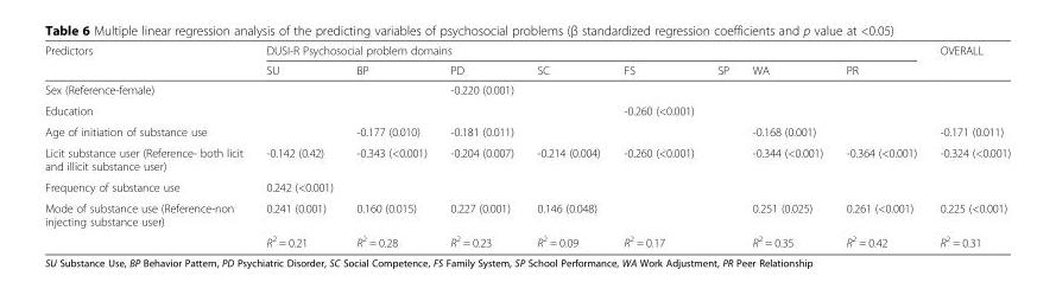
<table><thead><tr><td rowspan="2">Predictors</td><td colspan="8">DUSI-R Psychosocial problem domains</td><td rowspan="2">OVERALL</td></tr><tr><td>SU</td><td>BP</td><td>PD</td><td>SC</td><td>FS</td><td>SP</td><td>WA</td><td>PR</td></tr></thead><tbody><tr><td>Sex (Reference-female)</td><td></td><td></td><td>-0.220 (0.001)</td><td></td><td></td><td></td><td></td><td></td><td></td></tr><tr><td>Education</td><td></td><td></td><td></td><td></td><td>-0.260 (&lt;0.001)</td><td></td><td></td><td></td><td></td></tr><tr><td>Age of initiation of substance use</td><td></td><td>-0.177 (0.010)</td><td>-0.181 (0.011)</td><td></td><td></td><td></td><td>-0.168 (0.001)</td><td></td><td>-0.171 (0.011)</td></tr><tr><td>Licit substance user (Reference- both licit and illicit substance user)</td><td>-0.142 (0.42)</td><td>-0.343 (&lt;0.001)</td><td>-0.204 (0.007)</td><td>-0.214 (0.004)</td><td>-0.260 (&lt;0.001)</td><td></td><td>-0.344 (&lt;0.001)</td><td>-0.364 (&lt;0.001)</td><td>-0.324 (&lt;0.001)</td></tr><tr><td>Frequency of substance use</td><td>0.242 (&lt;0.001)</td><td></td><td></td><td></td><td></td><td></td><td></td><td></td><td></td></tr><tr><td rowspan="2">Mode of substance use (Reference-non injecting substance user)</td><td>0.241 (0.001)</td><td>0.160 (0.015)</td><td>0.227 (0.001)</td><td>0.146 (0.048)</td><td></td><td></td><td>0.251 (0.025)</td><td>0.261 (&lt;0.001)</td><td>0.225 (&lt;0.001)</td></tr><tr><td>R<sup>2</sup> = 0.21</td><td>R<sup>2</sup> = 0.28</td><td>R<sup>2</sup> = 0.23</td><td>R<sup>2</sup> = 0.09</td><td>R<sup>2</sup> = 0.17</td><td></td><td>R<sup>2</sup> = 0.35</td><td>R<sup>2</sup> = 0.42</td><td>R<sup>2</sup> = 0.31</td></tr></tbody></table>